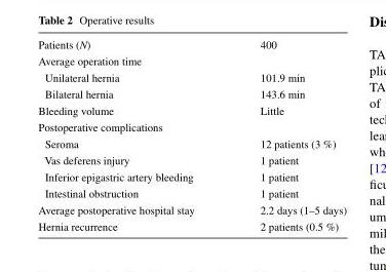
<table><tbody><tr><td>Patients (N)</td><td>400</td></tr><tr><td colspan="2">Average operation time</td></tr><tr><td>Unilateral hernia</td><td>101.9 min</td></tr><tr><td>Bilateral hernia</td><td>143.6 min</td></tr><tr><td>Bleeding volume</td><td>Little</td></tr><tr><td colspan="2">Postoperative complications</td></tr><tr><td>Seroma</td><td>12 patients (3 %)</td></tr><tr><td>Vas deferens injury</td><td>1 patient</td></tr><tr><td>Inferior epigastric artery bleeding</td><td>1 patient</td></tr><tr><td>Intestinal obstruction</td><td>1 patient</td></tr><tr><td>Average postoperative hospital stay</td><td>2.2 days (1–5 days)</td></tr><tr><td>Hernia recurrence</td><td>2 patients (0.5 %)</td></tr></tbody></table>